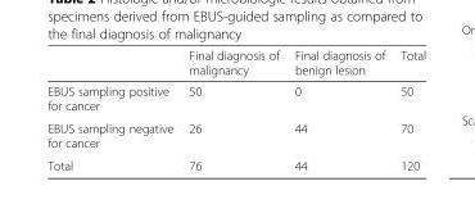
<table><thead><tr><td></td><td>Final diagnosis of malignancy</td><td>Final diagnosis of benign lesion</td><td>Total</td></tr></thead><tbody><tr><td>EBUS sampling positive for cancer</td><td>50</td><td>0</td><td>50</td></tr><tr><td>EBUS sampling negative for cancer</td><td>26</td><td>44</td><td>70</td></tr><tr><td>Total</td><td>76</td><td>44</td><td>120</td></tr></tbody></table>